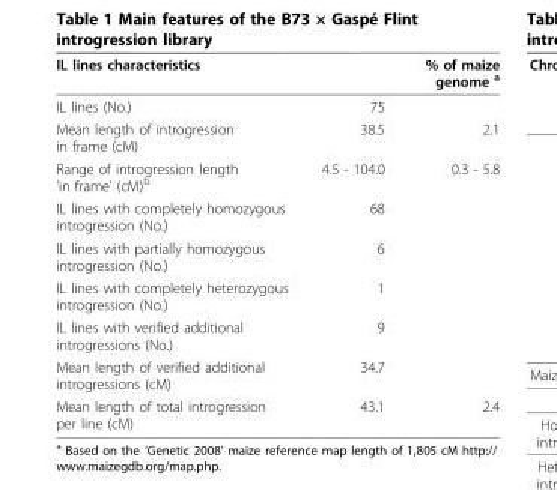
<table><thead><tr><td>IL lines characteristics</td><td></td><td>% of maize genome <sup>a</sup></td></tr></thead><tbody><tr><td>IL lines (No.)</td><td>75</td><td></td></tr><tr><td>Mean length of introgression in frame (cM)</td><td>38.5</td><td>2.1</td></tr><tr><td>Range of introgression length ‘in frame’ (cM)<sup>b</sup></td><td>4.5 - 104.0</td><td>0.3 - 5.8</td></tr><tr><td>IL lines with completely homozygous introgression (No.)</td><td>68</td><td></td></tr><tr><td>IL lines with partially homozygous introgression (No.)</td><td>6</td><td></td></tr><tr><td>IL lines with completely heterozygous introgression (No.)</td><td>1</td><td></td></tr><tr><td>IL lines with verified additional introgressions (No.)</td><td>9</td><td></td></tr><tr><td>Mean length of verified additional introgressions (cM)</td><td>34.7</td><td></td></tr><tr><td>Mean length of total introgression per line (cM)</td><td>43.1</td><td>2.4</td></tr></tbody></table>